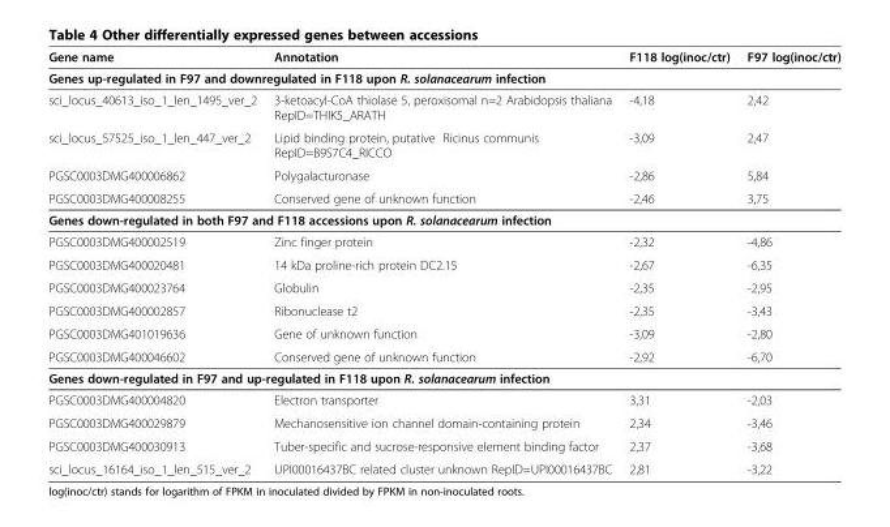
<table><thead><tr><td>Gene name</td><td>Annotation</td><td>F118 log(inoc/ctr)</td><td>F97 log(inoc/ctr)</td></tr></thead><tbody><tr><td colspan="4">Genes up-regulated in F97 and downregulated in F118 upon R. solanacearum infection</td></tr><tr><td>sci_locus_40613_iso_1_len_1495_ver_2</td><td>3-ketoacyl-CoA thiolase 5, peroxisomal n=2 Arabidopsis thaliana RepID=THIK5_ARATH</td><td>-4,18</td><td>2,42</td></tr><tr><td>sci_locus_57525_iso_1_len_447_ver_2</td><td>Lipid binding protein, putative Ricinus communis RepID=B9S7C4_RICCO</td><td>-3,09</td><td>2,47</td></tr><tr><td>PGSC0003DMG400006862</td><td>Polygalacturonase</td><td>-2,86</td><td>5,84</td></tr><tr><td>PGSC0003DMG400008255</td><td>Conserved gene of unknown function</td><td>-2,46</td><td>3,75</td></tr><tr><td colspan="4">Genes down-regulated in both F97 and F118 accessions upon R. solanacearum infection</td></tr><tr><td>PGSC0003DMG400002519</td><td>Zinc finger protein</td><td>-2,32</td><td>-4,86</td></tr><tr><td>PGSC0003DMG400020481</td><td>14 kDa proline-rich protein DC2.15</td><td>-2,67</td><td>-6,35</td></tr><tr><td>PGSC0003DMG400023764</td><td>Globulin</td><td>-2,35</td><td>-2,95</td></tr><tr><td>PGSC0003DMG400002857</td><td>Ribonuclease t2</td><td>-2,35</td><td>-3,43</td></tr><tr><td>PGSC0003DMG401019636</td><td>Gene of unknown function</td><td>-3,09</td><td>-2,80</td></tr><tr><td>PGSC0003DMG400046602</td><td>Conserved gene of unknown function</td><td>-2,92</td><td>-6,70</td></tr><tr><td colspan="4">Genes down-regulated in F97 and up-regulated in F118 upon R. solanacearum infection</td></tr><tr><td>PGSC0003DMG400004820</td><td>Electron transporter</td><td>3,31</td><td>-2,03</td></tr><tr><td>PGSC0003DMG400029879</td><td>Mechanosensitive ion channel domain-containing protein</td><td>2,34</td><td>-3,46</td></tr><tr><td>PGSC0003DMG400030913</td><td>Tuber-specific and sucrose-responsive element binding factor</td><td>2,37</td><td>-3,68</td></tr><tr><td>sci_locus_16164_iso_1_len_515_ver_2</td><td>UPI00016437BC related cluster unknown RepID=UPI00016437BC</td><td>2,81</td><td>-3,22</td></tr></tbody></table>